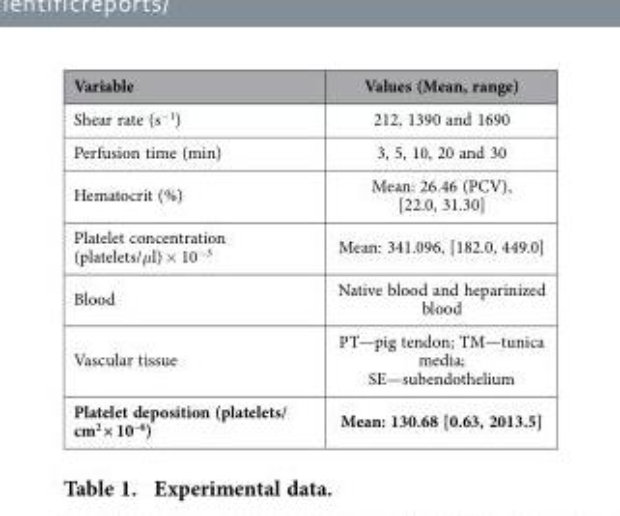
<table><thead><tr><td>Variable</td><td>Values (Mean, range)</td></tr></thead><tbody><tr><td>Shear rate (s<sup>−1</sup>)</td><td>212, 1390 and 1690</td></tr><tr><td>Perfusion time (min)</td><td>3, 5, 10, 20 and 30</td></tr><tr><td>Hematocrit (%)</td><td>Mean: 26.46 (PCV), [22.0, 31.30]</td></tr><tr><td>Platelet concentration (platelets/μl) × 10<sup>−3</sup></td><td>Mean: 341.096, [182.0, 449.0]</td></tr><tr><td>Blood</td><td>Native blood and heparinized blood</td></tr><tr><td>Vascular tissue</td><td>PT—pig tendon; TM—tunica media; SE—subendothelium</td></tr><tr><td>Platelet deposition (platelets/ cm<sup>2</sup> × 10<sup>−6</sup>)</td><td>Mean: 130.68 [0.63, 2013.5]</td></tr></tbody></table>